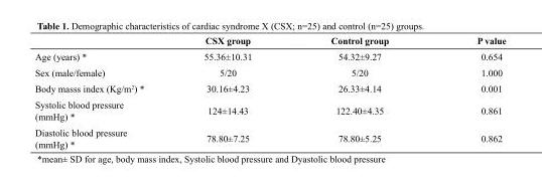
<table><thead><tr><td></td><td>CSX group</td><td>Control group</td><td>P value</td></tr></thead><tbody><tr><td>Age (years) *</td><td>55.36±10.31</td><td>54.32±9.27</td><td>0.654</td></tr><tr><td>Sex (male/female)</td><td>5/20</td><td>5/20</td><td>1.000</td></tr><tr><td>Body masss index (Kg/m2) *</td><td>30.16±4.23</td><td>26.33±4.14</td><td>0.001</td></tr><tr><td>Systolic blood pressure (mmHg) *</td><td>124±14.43</td><td>122.40±4.35</td><td>0.861</td></tr><tr><td>Diastolic blood pressure (mmHg) *</td><td>78.80±7.25</td><td>78.80±5.25</td><td>0.862</td></tr></tbody></table>